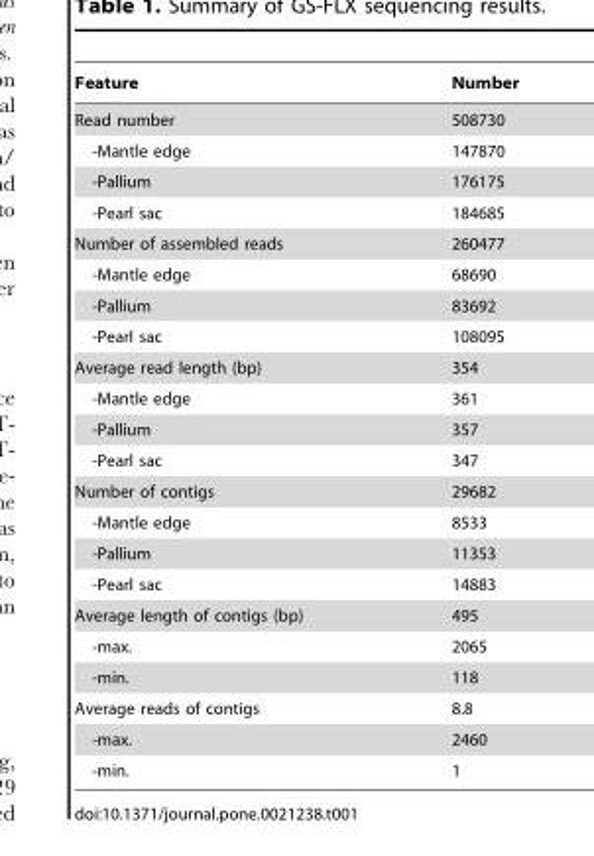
<table><thead><tr><td>Feature</td><td>Number</td></tr></thead><tbody><tr><td>Read number</td><td>508730</td></tr><tr><td>-Mantle edge</td><td>147870</td></tr><tr><td>-Pallium</td><td>176175</td></tr><tr><td>-Pearl sac</td><td>184685</td></tr><tr><td>Number of assembled reads</td><td>260477</td></tr><tr><td>-Mantle edge</td><td>68690</td></tr><tr><td>-Pallium</td><td>83692</td></tr><tr><td>-Pearl sac</td><td>108095</td></tr><tr><td>Average read length (bp)</td><td>354</td></tr><tr><td>-Mantle edge</td><td>361</td></tr><tr><td>-Pallium</td><td>357</td></tr><tr><td>-Pearl sac</td><td>347</td></tr><tr><td>Number of contigs</td><td>29682</td></tr><tr><td>-Mantle edge</td><td>8533</td></tr><tr><td>-Pallium</td><td>11353</td></tr><tr><td>-Pearl sac</td><td>14883</td></tr><tr><td>Average length of contigs (bp)</td><td>495</td></tr><tr><td>-max.</td><td>2065</td></tr><tr><td>-min.</td><td>118</td></tr><tr><td>Average reads of contigs</td><td>8.8</td></tr><tr><td>-max.</td><td>2460</td></tr><tr><td>-min.</td><td>1</td></tr></tbody></table>